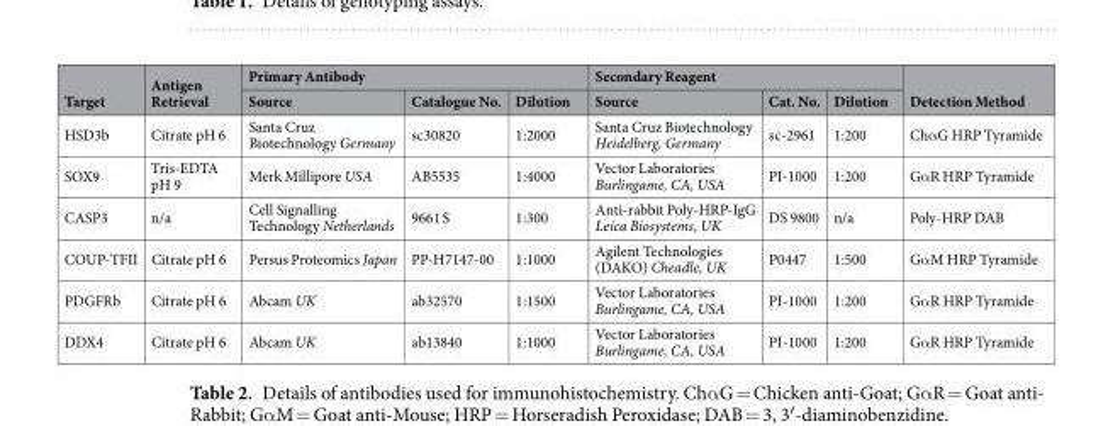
<table><thead><tr><td rowspan="2">Target</td><td rowspan="2">Antigen Retrieval</td><td colspan="3">Primary Antibody</td><td colspan="3">Secondary Reagent</td><td rowspan="2">Detection Method</td></tr><tr><td>Source</td><td>Catalogue No.</td><td>Dilution</td><td>Source</td><td>Cat. No.</td><td>Dilution</td></tr></thead><tbody><tr><td>HSD3b</td><td>Citrate pH 6</td><td>Santa Cruz Biotechnology Germany</td><td>sc30820</td><td>1:2000</td><td>Santa Cruz Biotechnology Heidelberg, Germany</td><td>sc-2961</td><td>1:200</td><td>ChαG HRP Tyramide</td></tr><tr><td>SOX9</td><td>Tris-EDTA pH 9</td><td>Merk Millipore USA</td><td>AB5535</td><td>1:4000</td><td>Vector Laboratories Burlingame, CA, USA</td><td>PI-1000</td><td>1:200</td><td>GαR HRP Tyramide</td></tr><tr><td>CASP3</td><td>n/a</td><td>Cell Signalling Technology Netherlands</td><td>9661 S</td><td>1:300</td><td>Anti-rabbit Poly-HRP-IgG Leica Biosystems, UK</td><td>DS 9800</td><td>n/a</td><td>Poly-HRP DAB</td></tr><tr><td>COUP-TFII</td><td>Citrate pH 6</td><td>Persus Proteomics Japan</td><td>PP-H7147-00</td><td>1:1000</td><td>Agilent Technologies (DAKO) Cheadle, UK</td><td>P0447</td><td>1:500</td><td>GαM HRP Tyramide</td></tr><tr><td>PDGFRb</td><td>Citrate pH 6</td><td>Abcam UK</td><td>ab32570</td><td>1:1500</td><td>Vector Laboratories Burlingame, CA, USA</td><td>PI-1000</td><td>1:200</td><td>GαR HRP Tyramide</td></tr><tr><td>DDX4</td><td>Citrate pH 6</td><td>Abcam UK</td><td>ab13840</td><td>1:1000</td><td>Vector Laboratories Burlingame, CA, USA</td><td>PI-1000</td><td>1:200</td><td>GαR HRP Tyramide</td></tr></tbody></table>